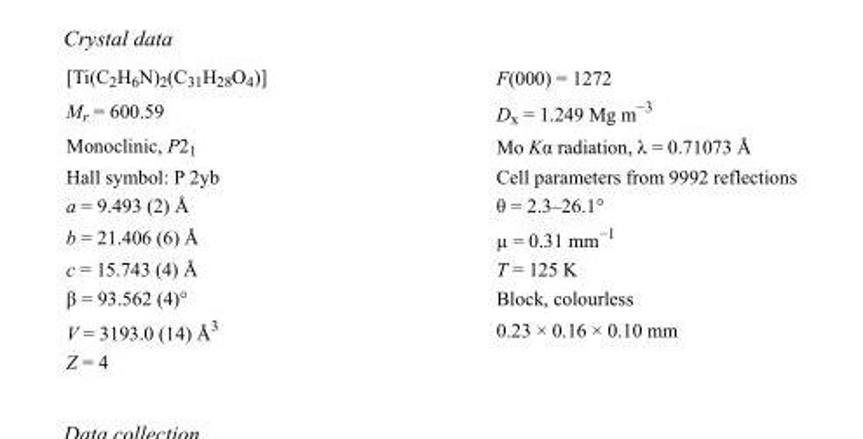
<table><tbody><tr><td>[Ti(C<sub>2</sub>H<sub>6</sub>N)<sub>2</sub>(C<sub>31</sub>H<sub>28</sub>O<sub>4</sub>)]</td><td>F(000) = 1272</td></tr><tr><td>M<sub>r</sub> = 600.59</td><td>D<sub>x</sub> = 1.249 Mg m<sup>−3</sup></td></tr><tr><td>Monoclinic, P2<sub>1</sub></td><td>Mo Kα radiation, λ = 0.71073 Å</td></tr><tr><td>Hall symbol: P 2yb</td><td>Cell parameters from 9992 reflections</td></tr><tr><td>a = 9.493 (2) Å</td><td>θ = 2.3–26.1°</td></tr><tr><td>b = 21.406 (6) Å</td><td>µ = 0.31 mm<sup>−1</sup></td></tr><tr><td>c = 15.743 (4) Å</td><td>T = 125 K</td></tr><tr><td>β = 93.562 (4)°</td><td>Block, colourless</td></tr><tr><td>V = 3193.0 (14) Å<sup>3</sup></td><td>0.23 × 0.16 × 0.10 mm</td></tr><tr><td>Z = 4</td><td></td></tr></tbody></table>